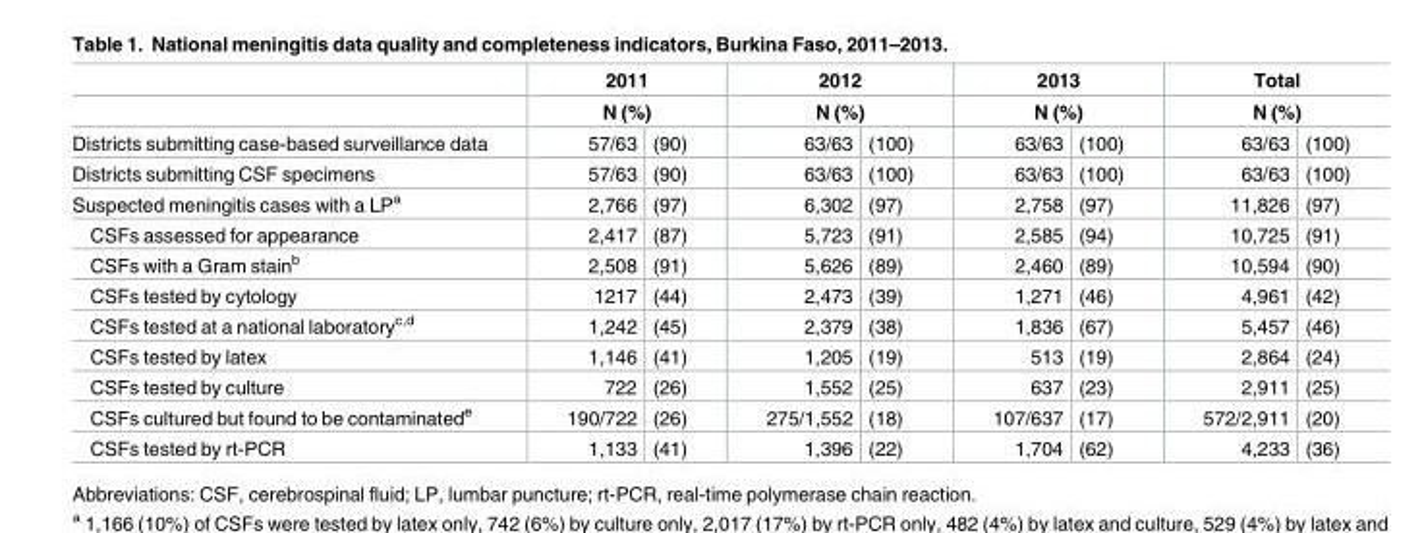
<table><thead><tr><td rowspan="3">Districts submitting case-based surveillance data</td><td rowspan="2" colspan="2">2011 N (%)</td><td rowspan="2" colspan="2">2012 N (%)</td><td rowspan="2" colspan="2">2013 N (%)</td><td rowspan="2" colspan="2">Total N (%)</td></tr><tr></tr><tr><td>57/63</td><td>(90)</td><td>63/63</td><td>(100)</td><td>63/63</td><td>(100)</td><td>63/63</td><td>(100)</td></tr></thead><tbody><tr><td>Districts submitting CSF specimens</td><td>57/63</td><td>(90)</td><td>63/63</td><td>(100)</td><td>63/63</td><td>(100)</td><td>63/63</td><td>(100)</td></tr><tr><td>Suspected meningitis cases with a LP<sup>a</sup></td><td>2,766</td><td>(97)</td><td>6,302</td><td>(97)</td><td>2,758</td><td>(97)</td><td>11,826</td><td>(97)</td></tr><tr><td>CSFs assessed for appearance</td><td>2,417</td><td>(87)</td><td>5,723</td><td>(91)</td><td>2,585</td><td>(94)</td><td>10,725</td><td>(91)</td></tr><tr><td>CSFs with a Gram stain<sup>b</sup></td><td>2,508</td><td>(91)</td><td>5,626</td><td>(89)</td><td>2,460</td><td>(89)</td><td>10,594</td><td>(90)</td></tr><tr><td>CSFs tested by cytology</td><td>1217</td><td>(44)</td><td>2,473</td><td>(39)</td><td>1,271</td><td>(46)</td><td>4,961</td><td>(42)</td></tr><tr><td>CSFs tested at a national laboratory<sup>c,d</sup></td><td>1,242</td><td>(45)</td><td>2,379</td><td>(38)</td><td>1,836</td><td>(67)</td><td>5,457</td><td>(46)</td></tr><tr><td>CSFs tested by latex</td><td>1,146</td><td>(41)</td><td>1,205</td><td>(19)</td><td>513</td><td>(19)</td><td>2,864</td><td>(24)</td></tr><tr><td>CSFs tested by culture</td><td>722</td><td>(26)</td><td>1,552</td><td>(25)</td><td>637</td><td>(23)</td><td>2,911</td><td>(25)</td></tr><tr><td>CSFs cultured but found to be contaminated<sup>e</sup></td><td>190/722</td><td>(26)</td><td>275/1,552</td><td>(18)</td><td>107/637</td><td>(17)</td><td>572/2,911</td><td>(20)</td></tr><tr><td>CSFs tested by rt-PCR</td><td>1,133</td><td>(41)</td><td>1,396</td><td>(22)</td><td>1,704</td><td>(62)</td><td>4,233</td><td>(36)</td></tr></tbody></table>